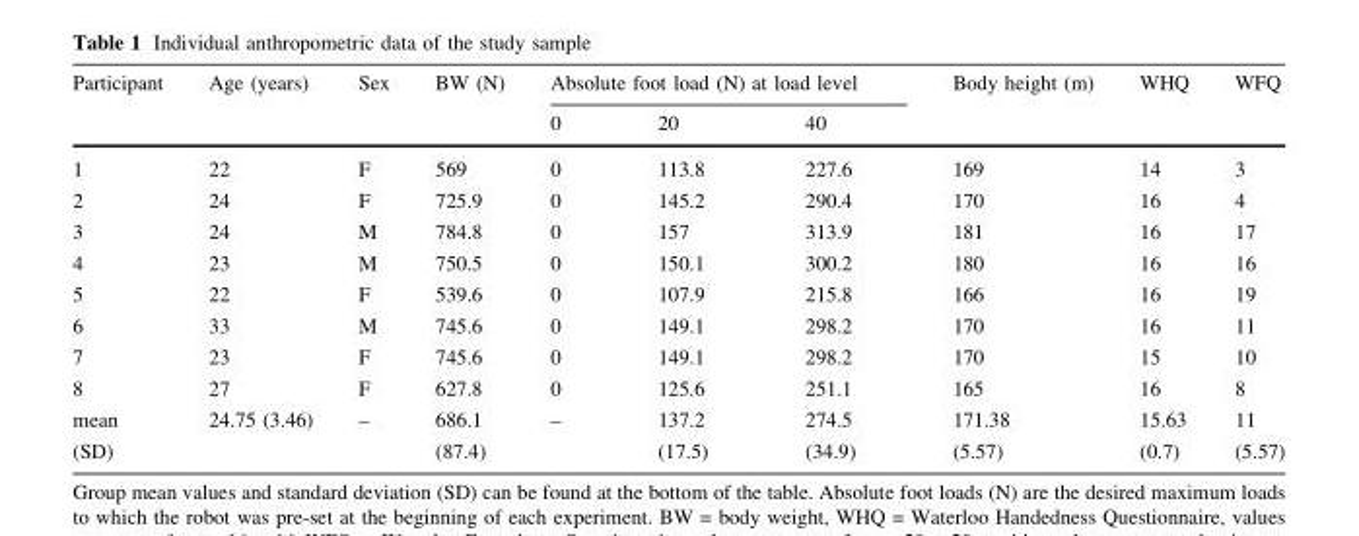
<table><thead><tr><td rowspan="2">Participant</td><td rowspan="2">Age (years)</td><td rowspan="2">Sex</td><td rowspan="2">BW (N)</td><td colspan="3">Absolute foot load (N) at load level</td><td rowspan="2">Body height (m)</td><td rowspan="2">WHQ</td><td rowspan="2">WFQ</td></tr><tr><td>0</td><td>20</td><td>40</td></tr></thead><tbody><tr><td>1</td><td>22</td><td>F</td><td>569</td><td>0</td><td>113.8</td><td>227.6</td><td>169</td><td>14</td><td>3</td></tr><tr><td>2</td><td>24</td><td>F</td><td>725.9</td><td>0</td><td>145.2</td><td>290.4</td><td>170</td><td>16</td><td>4</td></tr><tr><td>3</td><td>24</td><td>M</td><td>784.8</td><td>0</td><td>157</td><td>313.9</td><td>181</td><td>16</td><td>17</td></tr><tr><td>4</td><td>23</td><td>M</td><td>750.5</td><td>0</td><td>150.1</td><td>300.2</td><td>180</td><td>16</td><td>16</td></tr><tr><td>5</td><td>22</td><td>F</td><td>539.6</td><td>0</td><td>107.9</td><td>215.8</td><td>166</td><td>16</td><td>19</td></tr><tr><td>6</td><td>33</td><td>M</td><td>745.6</td><td>0</td><td>149.1</td><td>298.2</td><td>170</td><td>16</td><td>11</td></tr><tr><td>7</td><td>23</td><td>F</td><td>745.6</td><td>0</td><td>149.1</td><td>298.2</td><td>170</td><td>15</td><td>10</td></tr><tr><td>8</td><td>27</td><td>F</td><td>627.8</td><td>0</td><td>125.6</td><td>251.1</td><td>165</td><td>16</td><td>8</td></tr><tr><td>mean (SD)</td><td>24.75 (3.46)</td><td>–</td><td>686.1 (87.4)</td><td>–</td><td>137.2 (17.5)</td><td>274.5 (34.9)</td><td>171.38 (5.57)</td><td>15.63 (0.7)</td><td>11 (5.57)</td></tr></tbody></table>